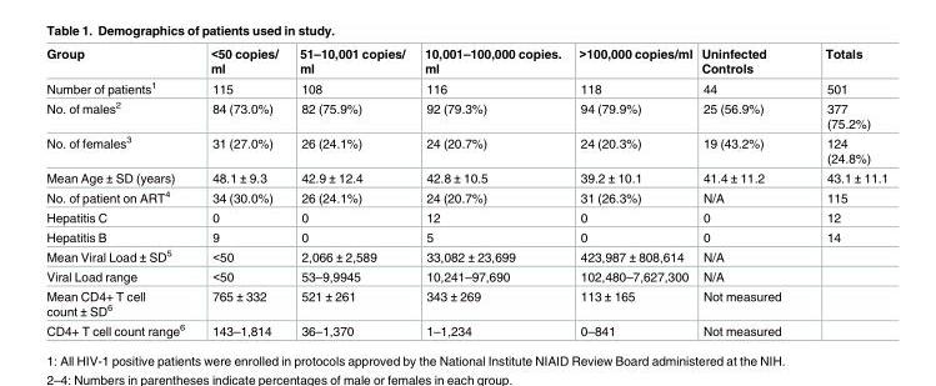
<table><thead><tr><td>Group</td><td>&lt;50 copies/ ml</td><td>51–10,001 copies/ ml</td><td>10,001–100,000 copies. ml</td><td>&gt;100,000 copies/ml</td><td>Uninfected Controls</td><td>Totals</td></tr></thead><tbody><tr><td>Number of patients<sup>1</sup></td><td>115</td><td>108</td><td>116</td><td>118</td><td>44</td><td>501</td></tr><tr><td>No. of males<sup>2</sup></td><td>84 (73.0%)</td><td>82 (75.9%)</td><td>92 (79.3%)</td><td>94 (79.9%)</td><td>25 (56.9%)</td><td>377 (75.2%)</td></tr><tr><td>No. of females<sup>3</sup></td><td>31 (27.0%)</td><td>26 (24.1%)</td><td>24 (20.7%)</td><td>24 (20.3%)</td><td>19 (43.2%)</td><td>124 (24.8%)</td></tr><tr><td>Mean Age ± SD (years)</td><td>48.1 ± 9.3</td><td>42.9 ± 12.4</td><td>42.8 ± 10.5</td><td>39.2 ± 10.1</td><td>41.4 ± 11.2</td><td>43.1 ± 11.1</td></tr><tr><td>No. of patient on ART<sup>4</sup></td><td>34 (30.0%)</td><td>26 (24.1%)</td><td>24 (20.7%)</td><td>31 (26.3%)</td><td>N/A</td><td>115</td></tr><tr><td>Hepatitis C</td><td>0</td><td>0</td><td>12</td><td>0</td><td>0</td><td>12</td></tr><tr><td>Hepatitis B</td><td>9</td><td>0</td><td>5</td><td>0</td><td>0</td><td>14</td></tr><tr><td>Mean Viral Load ± SD<sup>5</sup></td><td>&lt;50</td><td>2,066 ± 2,589</td><td>33,082 ± 23,699</td><td>423,987 ± 808,614</td><td>N/A</td><td></td></tr><tr><td>Viral Load range</td><td>&lt;50</td><td>53–9,9945</td><td>10,241–97,690</td><td>102,480–7,627,300</td><td>N/A</td><td></td></tr><tr><td>Mean CD4+ T cell count ± SD<sup>6</sup></td><td>765 ± 332</td><td>521 ± 261</td><td>343 ± 269</td><td>113 ± 165</td><td>Not measured</td><td></td></tr><tr><td>CD4+ T cell count range<sup>6</sup></td><td>143–1,814</td><td>36–1,370</td><td>1–1,234</td><td>0–841</td><td>Not measured</td><td></td></tr></tbody></table>